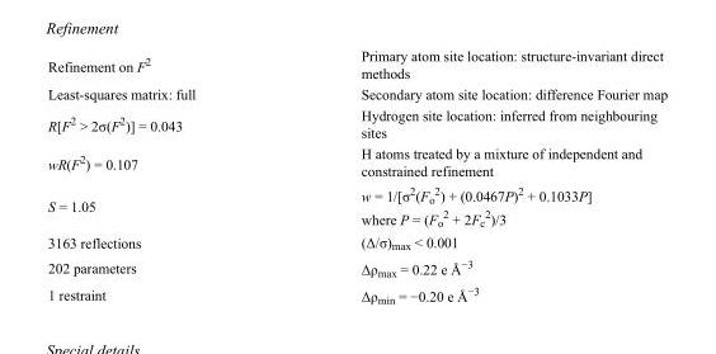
<table><tbody><tr><td>Refinement on F<sup>2</sup></td><td>Primary atom site location: structure-invariant direct methods</td></tr><tr><td>Least-squares matrix: full</td><td>Secondary atom site location: difference Fourier map</td></tr><tr><td>R[F<sup>2</sup> &gt; 2σ(F<sup>2</sup>)] = 0.043</td><td>Hydrogen site location: inferred from neighbouring sites</td></tr><tr><td>wR(F<sup>2</sup>) = 0.107</td><td>H atoms treated by a mixture of independent and constrained refinement</td></tr><tr><td>S = 1.05</td><td>w = 1/[σ<sup>2</sup>(F<sub>o</sub> <sup>2</sup>) + (0.0467P)<sup>2</sup> + 0.1033P] where P = (F<sub>o</sub> <sup>2</sup> + 2F<sub>c</sub> <sup>2</sup>)/3</td></tr><tr><td>3163 reflections</td><td>(Δ/σ)<sub>max</sub> &lt; 0.001</td></tr><tr><td>202 parameters</td><td>Δρ<sub>max</sub> = 0.22 e Å<sup>−3</sup></td></tr><tr><td>1 restraint</td><td>Δρ<sub>min</sub> = −0.20 e Å<sup>−3</sup></td></tr></tbody></table>